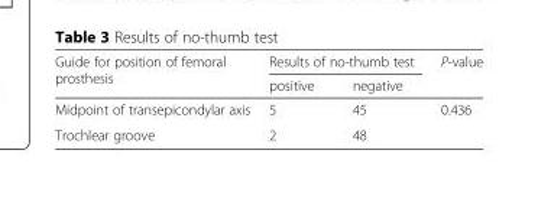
<table><thead><tr><td rowspan="2">Guide for position of femoral prosthesis</td><td colspan="2">Results of no-thumb test</td><td rowspan="2">P-value</td></tr><tr><td>positive</td><td>negative</td></tr></thead><tbody><tr><td>Midpoint of transepicondylar axis</td><td>5</td><td>45</td><td rowspan="2">0.436</td></tr><tr><td>Trochlear groove</td><td>2</td><td>48</td></tr></tbody></table>